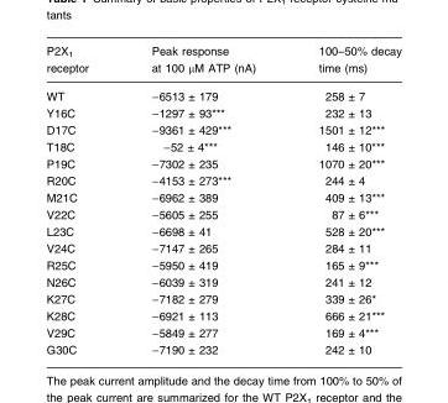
<table><thead><tr><td>P2X<sub>1</sub> receptor</td><td>Peak response at 100 μM ATP (nA)</td><td>100–50% decay time (ms)</td></tr></thead><tbody><tr><td>WT</td><td>−6513 ± 179</td><td>258 ± 7</td></tr><tr><td>Y16C</td><td>−1297 ± 93***</td><td>232 ± 13</td></tr><tr><td>D17C</td><td>−9361 ± 429***</td><td>1501 ± 12***</td></tr><tr><td>T18C</td><td>−52 ± 4***</td><td>146 ± 10***</td></tr><tr><td>P19C</td><td>−7302 ± 235</td><td>1070 ± 20***</td></tr><tr><td>R20C</td><td>−4153 ± 273***</td><td>244 ± 4</td></tr><tr><td>M21C</td><td>−6962 ± 389</td><td>409 ± 13***</td></tr><tr><td>V22C</td><td>−5605 ± 255</td><td>87 ± 6***</td></tr><tr><td>L23C</td><td>−6698 ± 41</td><td>528 ± 20***</td></tr><tr><td>V24C</td><td>−7147 ± 265</td><td>284 ± 11</td></tr><tr><td>R25C</td><td>−5950 ± 419</td><td>165 ± 9***</td></tr><tr><td>N26C</td><td>−6039 ± 319</td><td>241 ± 12</td></tr><tr><td>K27C</td><td>−7182 ± 279</td><td>339 ± 26*</td></tr><tr><td>K28C</td><td>−6921 ± 113</td><td>666 ± 21***</td></tr><tr><td>V29C</td><td>−5849 ± 277</td><td>169 ± 4***</td></tr><tr><td>G30C</td><td>−7190 ± 232</td><td>242 ± 10</td></tr></tbody></table>